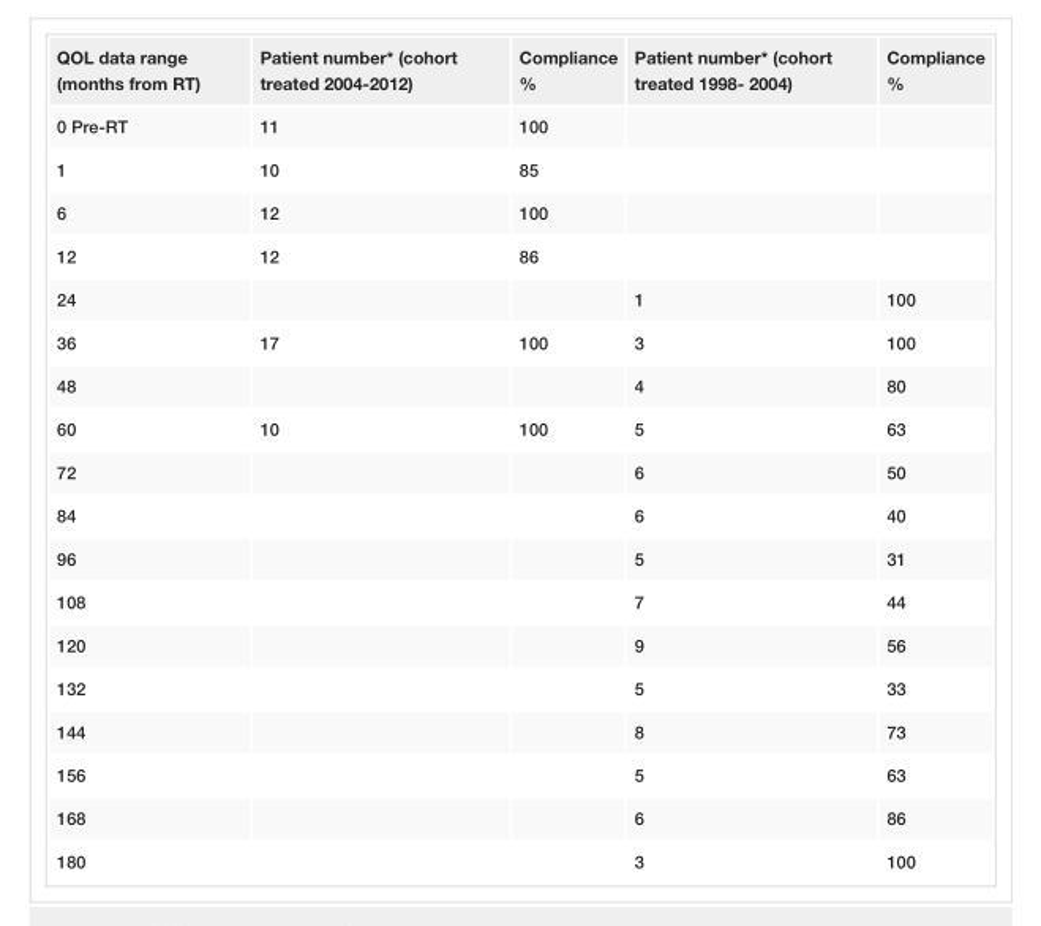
<table><tbody><tr><td>QOL data range (months from RT)</td><td>Patient number* (cohort treated 2004-2012)</td><td>Compliance %</td><td>Patient number* (cohort treated 1998- 2004)</td><td>Compliance %</td></tr><tr><td>0 Pre-RT</td><td>11</td><td>100</td><td></td><td></td></tr><tr><td>1</td><td>10</td><td>85</td><td></td><td></td></tr><tr><td>6</td><td>12</td><td>100</td><td></td><td></td></tr><tr><td>12</td><td>12</td><td>86</td><td></td><td></td></tr><tr><td>24</td><td></td><td></td><td>1</td><td>100</td></tr><tr><td>36</td><td>17</td><td>100</td><td>3</td><td>100</td></tr><tr><td>48</td><td></td><td></td><td>4</td><td>80</td></tr><tr><td>60</td><td>10</td><td>100</td><td>5</td><td>63</td></tr><tr><td>72</td><td></td><td></td><td>6</td><td>50</td></tr><tr><td>84</td><td></td><td></td><td>6</td><td>40</td></tr><tr><td>96</td><td></td><td></td><td>5</td><td>31</td></tr><tr><td>108</td><td></td><td></td><td>7</td><td>44</td></tr><tr><td>120</td><td></td><td></td><td>9</td><td>56</td></tr><tr><td>132</td><td></td><td></td><td>5</td><td>33</td></tr><tr><td>144</td><td></td><td></td><td>8</td><td>73</td></tr><tr><td>156</td><td></td><td></td><td>5</td><td>63</td></tr><tr><td>168</td><td></td><td></td><td>6</td><td>86</td></tr><tr><td>180</td><td></td><td></td><td>3</td><td>100</td></tr></tbody></table>